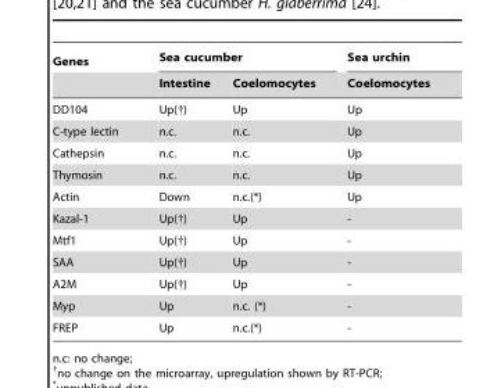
<table><thead><tr><td rowspan="2">Genes</td><td colspan="2">Sea cucumber</td><td rowspan="2">Sea urchin Coelomocytes</td></tr><tr><td>Intestine</td><td>Coelomocytes</td></tr></thead><tbody><tr><td>DD104</td><td>Up(†)</td><td>Up</td><td>Up</td></tr><tr><td>C-type lectin</td><td>n.c.</td><td>n.c.</td><td>Up</td></tr><tr><td>Cathepsin</td><td>n.c.</td><td>n.c.</td><td>Up</td></tr><tr><td>Thymosin</td><td>n.c.</td><td>n.c.</td><td>Up</td></tr><tr><td>Actin</td><td>Down</td><td>n.c.(*)</td><td>Up</td></tr><tr><td>Kazal-1</td><td>Up(†)</td><td>Up</td><td>-</td></tr><tr><td>Mtf1</td><td>Up(†)</td><td>Up</td><td>-</td></tr><tr><td>SAA</td><td>Up(†)</td><td>Up</td><td>-</td></tr><tr><td>A2M</td><td>Up(†)</td><td>Up</td><td>-</td></tr><tr><td>Myp</td><td>Up</td><td>n.c. (*)</td><td>-</td></tr><tr><td>FREP</td><td>Up</td><td>n.c.(*)</td><td>-</td></tr></tbody></table>